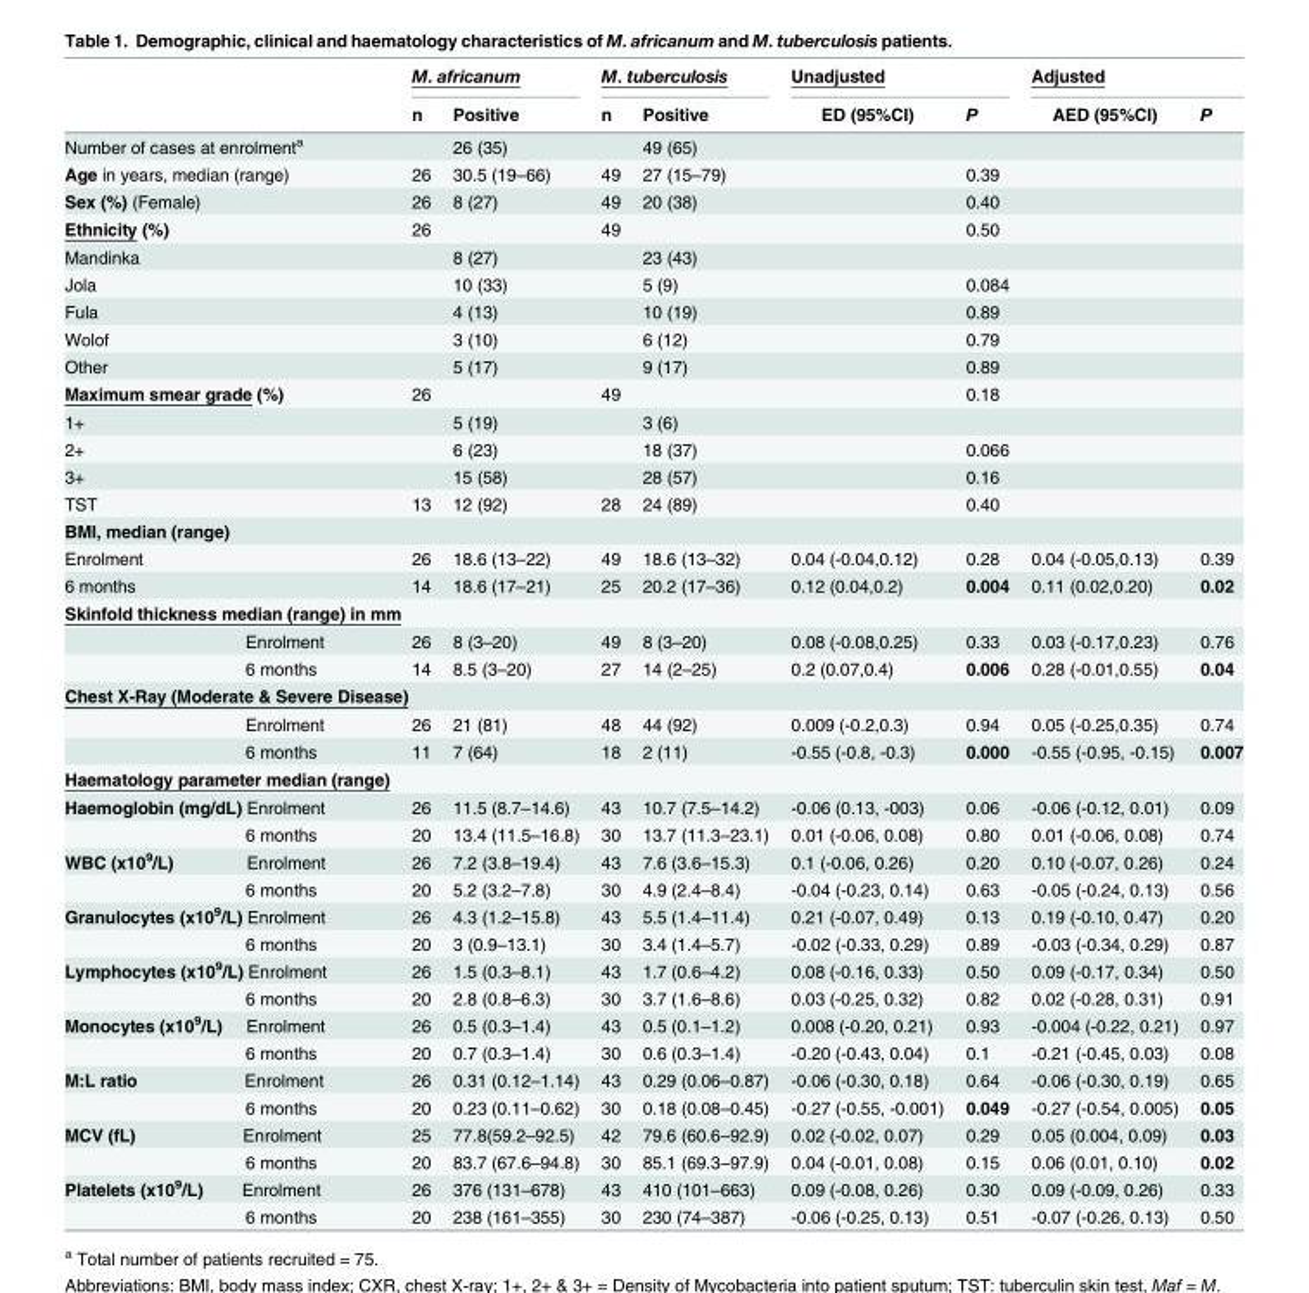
<table><thead><tr><td rowspan="2"></td><td colspan="2">M. africanum</td><td colspan="2">M. tuberculosis</td><td colspan="2">Unadjusted</td><td colspan="2">Adjusted</td></tr><tr><td>n</td><td>Positive</td><td>n</td><td>Positive</td><td>ED (95%CI)</td><td>P</td><td>AED (95%CI)</td><td>P</td></tr></thead><tbody><tr><td>Number of cases at enrolment<sup>a</sup></td><td></td><td>26 (35)</td><td></td><td>49 (65)</td><td></td><td></td><td></td><td></td></tr><tr><td>Age in years, median (range)</td><td>26</td><td>30.5 (19–66)</td><td>49</td><td>27 (15–79)</td><td></td><td>0.39</td><td></td><td></td></tr><tr><td>Sex (%) (Female)</td><td>26</td><td>8 (27)</td><td>49</td><td>20 (38)</td><td></td><td>0.40</td><td></td><td></td></tr><tr><td>Ethnicity (%)</td><td>26</td><td></td><td>49</td><td></td><td></td><td>0.50</td><td></td><td></td></tr><tr><td>Mandinka</td><td></td><td>8 (27)</td><td></td><td>23 (43)</td><td></td><td></td><td></td><td></td></tr><tr><td>Jola</td><td></td><td>10 (33)</td><td></td><td>5 (9)</td><td></td><td>0.084</td><td></td><td></td></tr><tr><td>Fula</td><td></td><td>4 (13)</td><td></td><td>10 (19)</td><td></td><td>0.89</td><td></td><td></td></tr><tr><td>Wolof</td><td></td><td>3 (10)</td><td></td><td>6 (12)</td><td></td><td>0.79</td><td></td><td></td></tr><tr><td>Other</td><td></td><td>5 (17)</td><td></td><td>9 (17)</td><td></td><td>0.89</td><td></td><td></td></tr><tr><td>Maximum smear grade (%)</td><td>26</td><td></td><td>49</td><td></td><td></td><td>0.18</td><td></td><td></td></tr><tr><td>1+</td><td></td><td>5 (19)</td><td></td><td>3 (6)</td><td></td><td></td><td></td><td></td></tr><tr><td>2+</td><td></td><td>6 (23)</td><td></td><td>18 (37)</td><td></td><td>0.066</td><td></td><td></td></tr><tr><td>3+</td><td></td><td>15 (58)</td><td></td><td>28 (57)</td><td></td><td>0.16</td><td></td><td></td></tr><tr><td>TST</td><td>13</td><td>12 (92)</td><td>28</td><td>24 (89)</td><td></td><td>0.40</td><td></td><td></td></tr><tr><td colspan="9">BMI, median (range)</td></tr><tr><td>Enrolment</td><td>26</td><td>18.6 (13–22)</td><td>49</td><td>18.6 (13–32)</td><td>0.04 (-0.04,0.12)</td><td>0.28</td><td>0.04 (-0.05,0.13)</td><td>0.39</td></tr><tr><td>6 months</td><td>14</td><td>18.6 (17–21)</td><td>25</td><td>20.2 (17–36)</td><td>0.12 (0.04,0.2)</td><td>0.004</td><td>0.11 (0.02,0.20)</td><td>0.02</td></tr><tr><td colspan="9">Skinfold thickness median (range) in mm</td></tr><tr><td>Enrolment</td><td>26</td><td>8 (3–20)</td><td>49</td><td>8 (3–20)</td><td>0.08 (-0.08,0.25)</td><td>0.33</td><td>0.03 (-0.17,0.23)</td><td>0.76</td></tr><tr><td>6 months</td><td>14</td><td>8.5 (3–20)</td><td>27</td><td>14 (2–25)</td><td>0.2 (0.07,0.4)</td><td>0.006</td><td>0.28 (-0.01,0.55)</td><td>0.04</td></tr><tr><td colspan="9">Chest X-Ray (Moderate &amp; Severe Disease)</td></tr><tr><td>Enrolment</td><td>26</td><td>21 (81)</td><td>48</td><td>44 (92)</td><td>0.009 (-0.2,0.3)</td><td>0.94</td><td>0.05 (-0.25,0.35)</td><td>0.74</td></tr><tr><td>6 months</td><td>11</td><td>7 (64)</td><td>18</td><td>2 (11)</td><td>-0.55 (-0.8, -0.3)</td><td>0.000</td><td>-0.55 (-0.95, -0.15)</td><td>0.007</td></tr><tr><td colspan="9">Haematology parameter median (range)</td></tr><tr><td>Haemoglobin (mg/dL) Enrolment</td><td>26</td><td>11.5 (8.7–14.6)</td><td>43</td><td>10.7 (7.5–14.2)</td><td>-0.06 (0.13, -003)</td><td>0.06</td><td>-0.06 (-0.12, 0.01)</td><td>0.09</td></tr><tr><td>6 months</td><td>20</td><td>13.4 (11.5–16.8)</td><td>30</td><td>13.7 (11.3–23.1)</td><td>0.01 (-0.06, 0.08)</td><td>0.80</td><td>0.01 (-0.06, 0.08)</td><td>0.74</td></tr><tr><td>WBC (x10<sup>9</sup>/L) Enrolment</td><td>26</td><td>7.2 (3.8–19.4)</td><td>43</td><td>7.6 (3.6–15.3)</td><td>0.1 (-0.06, 0.26)</td><td>0.20</td><td>0.10 (-0.07, 0.26)</td><td>0.24</td></tr><tr><td>6 months</td><td>20</td><td>5.2 (3.2–7.8)</td><td>30</td><td>4.9 (2.4–8.4)</td><td>-0.04 (-0.23, 0.14)</td><td>0.63</td><td>-0.05 (-0.24, 0.13)</td><td>0.56</td></tr><tr><td>Granulocytes (x10<sup>9</sup>/L) Enrolment</td><td>26</td><td>4.3 (1.2–15.8)</td><td>43</td><td>5.5 (1.4–11.4)</td><td>0.21 (-0.07, 0.49)</td><td>0.13</td><td>0.19 (-0.10, 0.47)</td><td>0.20</td></tr><tr><td>6 months</td><td>20</td><td>3 (0.9–13.1)</td><td>30</td><td>3.4 (1.4–5.7)</td><td>-0.02 (-0.33, 0.29)</td><td>0.89</td><td>-0.03 (-0.34, 0.29)</td><td>0.87</td></tr><tr><td>Lymphocytes (x10<sup>9</sup>/L) Enrolment</td><td>26</td><td>1.5 (0.3–8.1)</td><td>43</td><td>1.7 (0.6–4.2)</td><td>0.08 (-0.16, 0.33)</td><td>0.50</td><td>0.09 (-0.17, 0.34)</td><td>0.50</td></tr><tr><td>6 months</td><td>20</td><td>2.8 (0.8–6.3)</td><td>30</td><td>3.7 (1.6–8.6)</td><td>0.03 (-0.25, 0.32)</td><td>0.82</td><td>0.02 (-0.28, 0.31)</td><td>0.91</td></tr><tr><td>Monocytes (x10<sup>9</sup>/L) Enrolment</td><td>26</td><td>0.5 (0.3–1.4)</td><td>43</td><td>0.5 (0.1–1.2)</td><td>0.008 (-0.20, 0.21)</td><td>0.93</td><td>-0.004 (-0.22, 0.21)</td><td>0.97</td></tr><tr><td>6 months</td><td>20</td><td>0.7 (0.3–1.4)</td><td>30</td><td>0.6 (0.3–1.4)</td><td>-0.20 (-0.43, 0.04)</td><td>0.1</td><td>-0.21 (-0.45, 0.03)</td><td>0.08</td></tr><tr><td>M:L ratio Enrolment</td><td>26</td><td>0.31 (0.12–1.14)</td><td>43</td><td>0.29 (0.06–0.87)</td><td>-0.06 (-0.30, 0.18)</td><td>0.64</td><td>-0.06 (-0.30, 0.19)</td><td>0.65</td></tr><tr><td>6 months</td><td>20</td><td>0.23 (0.11–0.62)</td><td>30</td><td>0.18 (0.08–0.45)</td><td>-0.27 (-0.55, -0.001)</td><td>0.049</td><td>-0.27 (-0.54, 0.005)</td><td>0.05</td></tr><tr><td>MCV (fL) Enrolment</td><td>25</td><td>77.8(59.2–92.5)</td><td>42</td><td>79.6 (60.6–92.9)</td><td>0.02 (-0.02, 0.07)</td><td>0.29</td><td>0.05 (0.004, 0.09)</td><td>0.03</td></tr><tr><td>6 months</td><td>20</td><td>83.7 (67.6–94.8)</td><td>30</td><td>85.1 (69.3–97.9)</td><td>0.04 (-0.01, 0.08)</td><td>0.15</td><td>0.06 (0.01, 0.10)</td><td>0.02</td></tr><tr><td>Platelets (x10<sup>9</sup>/L) Enrolment</td><td>26</td><td>376 (131–678)</td><td>43</td><td>410 (101–663)</td><td>0.09 (-0.08, 0.26)</td><td>0.30</td><td>0.09 (-0.09, 0.26)</td><td>0.33</td></tr><tr><td>6 months</td><td>20</td><td>238 (161–355)</td><td>30</td><td>230 (74–387)</td><td>-0.06 (-0.25, 0.13)</td><td>0.51</td><td>-0.07 (-0.26, 0.13)</td><td>0.50</td></tr></tbody></table>